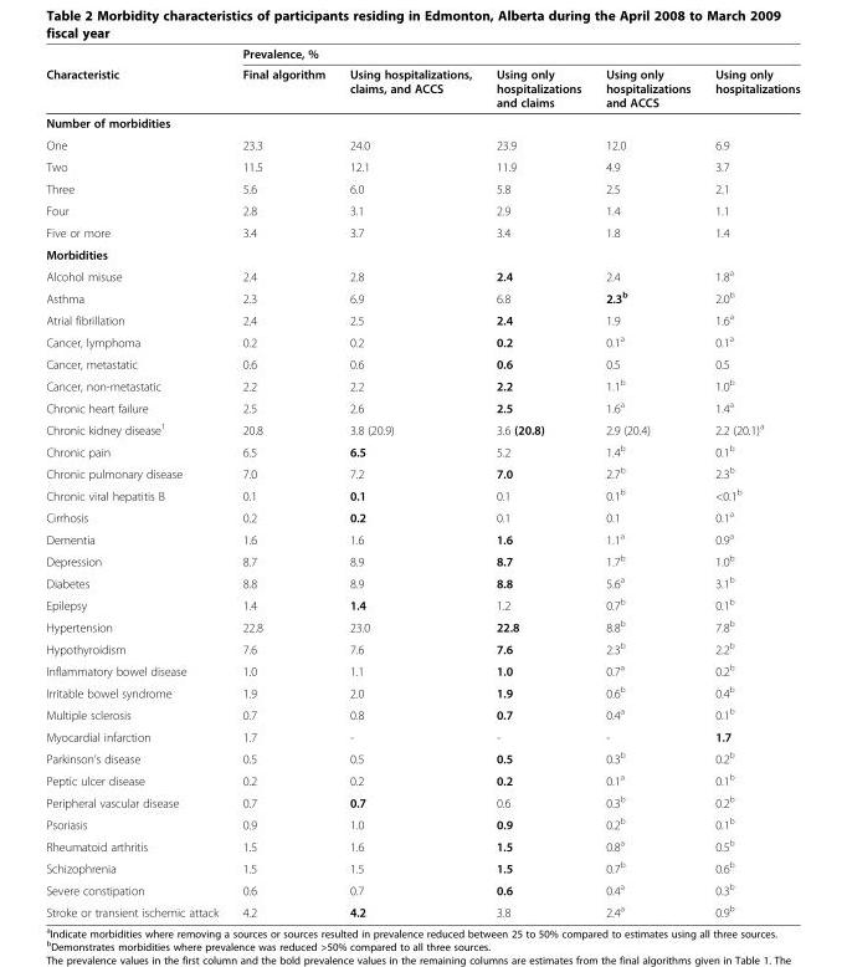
<table><thead><tr><td rowspan="2">Characteristic</td><td colspan="5">Prevalence, %</td></tr><tr><td>Final algorithm</td><td>Using hospitalizations, claims, and ACCS</td><td>Using only hospitalizations and claims</td><td>Using only hospitalizations and ACCS</td><td>Using only hospitalizations</td></tr></thead><tbody><tr><td colspan="6">Number of morbidities</td></tr><tr><td>One</td><td>23.3</td><td>24.0</td><td>23.9</td><td>12.0</td><td>6.9</td></tr><tr><td>Two</td><td>11.5</td><td>12.1</td><td>11.9</td><td>4.9</td><td>3.7</td></tr><tr><td>Three</td><td>5.6</td><td>6.0</td><td>5.8</td><td>2.5</td><td>2.1</td></tr><tr><td>Four</td><td>2.8</td><td>3.1</td><td>2.9</td><td>1.4</td><td>1.1</td></tr><tr><td>Five or more</td><td>3.4</td><td>3.7</td><td>3.4</td><td>1.8</td><td>1.4</td></tr><tr><td colspan="6">Morbidities</td></tr><tr><td>Alcohol misuse</td><td>2.4</td><td>2.8</td><td>2.4</td><td>2.4</td><td>1.8<sup>a</sup></td></tr><tr><td>Asthma</td><td>2.3</td><td>6.9</td><td>6.8</td><td>2.3<sup>b</sup></td><td>2.0<sup>b</sup></td></tr><tr><td>Atrial fibrillation</td><td>2.4</td><td>2.5</td><td>2.4</td><td>1.9</td><td>1.6<sup>a</sup></td></tr><tr><td>Cancer, lymphoma</td><td>0.2</td><td>0.2</td><td>0.2</td><td>0.1<sup>a</sup></td><td>0.1<sup>a</sup></td></tr><tr><td>Cancer, metastatic</td><td>0.6</td><td>0.6</td><td>0.6</td><td>0.5</td><td>0.5</td></tr><tr><td>Cancer, non-metastatic</td><td>2.2</td><td>2.2</td><td>2.2</td><td>1.1<sup>b</sup></td><td>1.0<sup>b</sup></td></tr><tr><td>Chronic heart failure</td><td>2.5</td><td>2.6</td><td>2.5</td><td>1.6<sup>a</sup></td><td>1.4<sup>a</sup></td></tr><tr><td>Chronic kidney disease<sup>1</sup></td><td>20.8</td><td>3.8 (20.9)</td><td>3.6 (20.8)</td><td>2.9 (20.4)</td><td>2.2 (20.1)<sup>a</sup></td></tr><tr><td>Chronic pain</td><td>6.5</td><td>6.5</td><td>5.2</td><td>1.4<sup>b</sup></td><td>0.1<sup>b</sup></td></tr><tr><td>Chronic pulmonary disease</td><td>7.0</td><td>7.2</td><td>7.0</td><td>2.7<sup>b</sup></td><td>2.3<sup>b</sup></td></tr><tr><td>Chronic viral hepatitis B</td><td>0.1</td><td>0.1</td><td>0.1</td><td>0.1<sup>b</sup></td><td>&lt;0.1<sup>b</sup></td></tr><tr><td>Cirrhosis</td><td>0.2</td><td>0.2</td><td>0.1</td><td>0.1</td><td>0.1<sup>a</sup></td></tr><tr><td>Dementia</td><td>1.6</td><td>1.6</td><td>1.6</td><td>1.1<sup>a</sup></td><td>0.9<sup>a</sup></td></tr><tr><td>Depression</td><td>8.7</td><td>8.9</td><td>8.7</td><td>1.7<sup>b</sup></td><td>1.0<sup>b</sup></td></tr><tr><td>Diabetes</td><td>8.8</td><td>8.9</td><td>8.8</td><td>5.6<sup>a</sup></td><td>3.1<sup>b</sup></td></tr><tr><td>Epilepsy</td><td>1.4</td><td>1.4</td><td>1.2</td><td>0.7<sup>b</sup></td><td>0.1<sup>b</sup></td></tr><tr><td>Hypertension</td><td>22.8</td><td>23.0</td><td>22.8</td><td>8.8<sup>b</sup></td><td>7.8<sup>b</sup></td></tr><tr><td>Hypothyroidism</td><td>7.6</td><td>7.6</td><td>7.6</td><td>2.3<sup>b</sup></td><td>2.2<sup>b</sup></td></tr><tr><td>Inflammatory bowel disease</td><td>1.0</td><td>1.1</td><td>1.0</td><td>0.7<sup>a</sup></td><td>0.2<sup>b</sup></td></tr><tr><td>Irritable bowel syndrome</td><td>1.9</td><td>2.0</td><td>1.9</td><td>0.6<sup>b</sup></td><td>0.4<sup>b</sup></td></tr><tr><td>Multiple sclerosis</td><td>0.7</td><td>0.8</td><td>0.7</td><td>0.4<sup>a</sup></td><td>0.1<sup>b</sup></td></tr><tr><td>Myocardial infarction</td><td>1.7</td><td>-</td><td>-</td><td>-</td><td>1.7</td></tr><tr><td>Parkinson’s disease</td><td>0.5</td><td>0.5</td><td>0.5</td><td>0.3<sup>b</sup></td><td>0.2<sup>b</sup></td></tr><tr><td>Peptic ulcer disease</td><td>0.2</td><td>0.2</td><td>0.2</td><td>0.1<sup>a</sup></td><td>0.1<sup>b</sup></td></tr><tr><td>Peripheral vascular disease</td><td>0.7</td><td>0.7</td><td>0.6</td><td>0.3<sup>b</sup></td><td>0.2<sup>b</sup></td></tr><tr><td>Psoriasis</td><td>0.9</td><td>1.0</td><td>0.9</td><td>0.2<sup>b</sup></td><td>0.1<sup>b</sup></td></tr><tr><td>Rheumatoid arthritis</td><td>1.5</td><td>1.6</td><td>1.5</td><td>0.8<sup>a</sup></td><td>0.5<sup>b</sup></td></tr><tr><td>Schizophrenia</td><td>1.5</td><td>1.5</td><td>1.5</td><td>0.7<sup>b</sup></td><td>0.6<sup>b</sup></td></tr><tr><td>Severe constipation</td><td>0.6</td><td>0.7</td><td>0.6</td><td>0.4<sup>a</sup></td><td>0.3<sup>b</sup></td></tr><tr><td>Stroke or transient ischemic attack</td><td>4.2</td><td>4.2</td><td>3.8</td><td>2.4<sup>a</sup></td><td>0.9<sup>b</sup></td></tr></tbody></table>